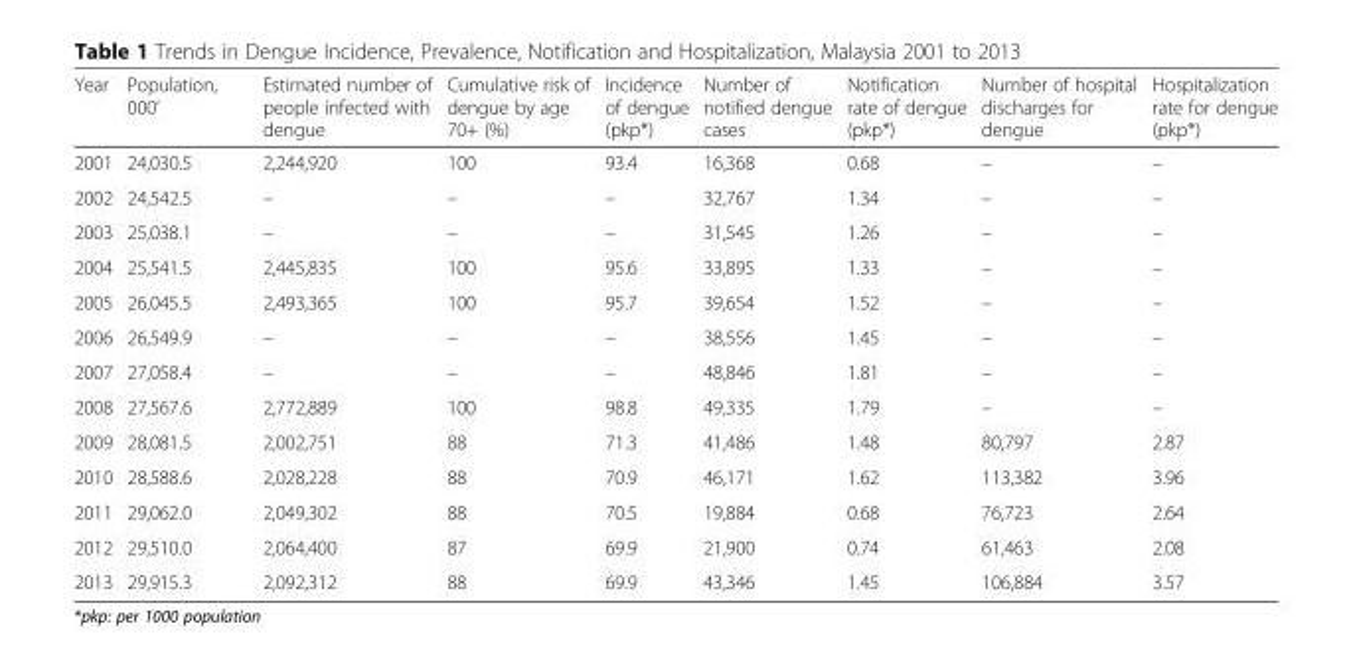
<table><thead><tr><td>Year</td><td>Population, 000’</td><td>Estimated number of people infected with dengue</td><td>Cumulative risk of dengue by age 70+ (%)</td><td>Incidence of dengue (pkp*)</td><td>Number of notified dengue cases</td><td>Notification rate of dengue (pkp*)</td><td>Number of hospital discharges for dengue</td><td>Hospitalization rate for dengue (pkp*)</td></tr></thead><tbody><tr><td>2001</td><td>24,030.5</td><td>2,244,920</td><td>100</td><td>93.4</td><td>16,368</td><td>0.68</td><td>–</td><td>–</td></tr><tr><td>2002</td><td>24,542.5</td><td>–</td><td>–</td><td>–</td><td>32,767</td><td>1.34</td><td>–</td><td>–</td></tr><tr><td>2003</td><td>25,038.1</td><td>–</td><td>–</td><td>–</td><td>31,545</td><td>1.26</td><td>–</td><td>–</td></tr><tr><td>2004</td><td>25,541.5</td><td>2,445,835</td><td>100</td><td>95.6</td><td>33,895</td><td>1.33</td><td>–</td><td>–</td></tr><tr><td>2005</td><td>26,045.5</td><td>2,493,365</td><td>100</td><td>95.7</td><td>39,654</td><td>1.52</td><td>–</td><td>–</td></tr><tr><td>2006</td><td>26,549.9</td><td>–</td><td>–</td><td>–</td><td>38,556</td><td>1.45</td><td>–</td><td>–</td></tr><tr><td>2007</td><td>27,058.4</td><td>–</td><td>–</td><td>–</td><td>48,846</td><td>1.81</td><td>–</td><td>–</td></tr><tr><td>2008</td><td>27,567.6</td><td>2,772,889</td><td>100</td><td>98.8</td><td>49,335</td><td>1.79</td><td>–</td><td>–</td></tr><tr><td>2009</td><td>28,081.5</td><td>2,002,751</td><td>88</td><td>71.3</td><td>41,486</td><td>1.48</td><td>80,797</td><td>2.87</td></tr><tr><td>2010</td><td>28,588.6</td><td>2,028,228</td><td>88</td><td>70.9</td><td>46,171</td><td>1.62</td><td>113,382</td><td>3.96</td></tr><tr><td>2011</td><td>29,062.0</td><td>2,049,302</td><td>88</td><td>70.5</td><td>19,884</td><td>0.68</td><td>76,723</td><td>2.64</td></tr><tr><td>2012</td><td>29,510.0</td><td>2,064,400</td><td>87</td><td>69.9</td><td>21,900</td><td>0.74</td><td>61,463</td><td>2.08</td></tr><tr><td>2013</td><td>29,915.3</td><td>2,092,312</td><td>88</td><td>69.9</td><td>43,346</td><td>1.45</td><td>106,884</td><td>3.57</td></tr></tbody></table>